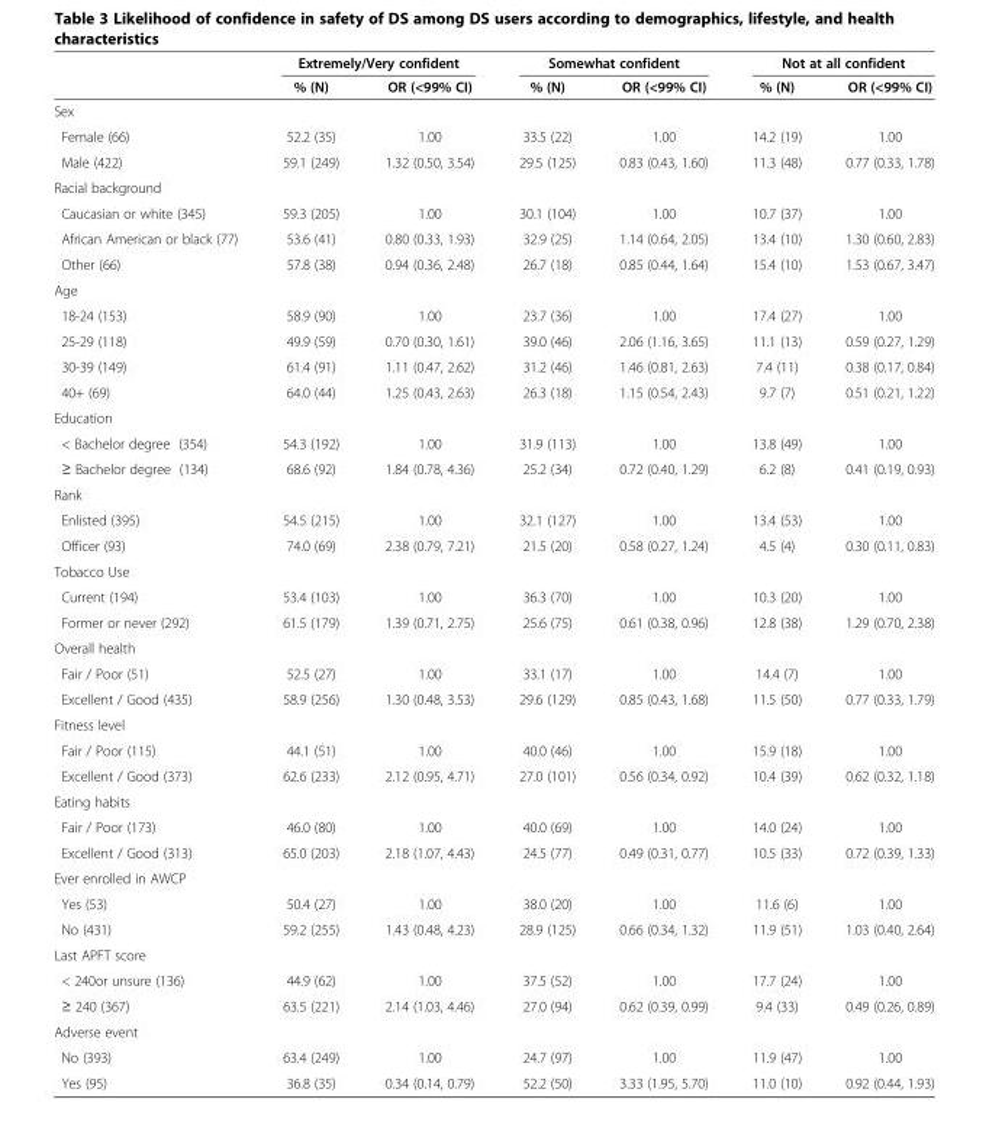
<table><thead><tr><td rowspan="2"></td><td colspan="2">Extremely/Very confident</td><td colspan="2">Somewhat confident</td><td colspan="2">Not at all confident</td></tr><tr><td>% (N)</td><td>OR (&lt;99% CI)</td><td>% (N)</td><td>OR (&lt;99% CI)</td><td>% (N)</td><td>OR (&lt;99% CI)</td></tr></thead><tbody><tr><td colspan="7">Sex</td></tr><tr><td>Female (66)</td><td>52.2 (35)</td><td>1.00</td><td>33.5 (22)</td><td>1.00</td><td>14.2 (19)</td><td>1.00</td></tr><tr><td>Male (422)</td><td>59.1 (249)</td><td>1.32 (0.50, 3.54)</td><td>29.5 (125)</td><td>0.83 (0.43, 1.60)</td><td>11.3 (48)</td><td>0.77 (0.33, 1.78)</td></tr><tr><td colspan="7">Racial background</td></tr><tr><td>Caucasian or white (345)</td><td>59.3 (205)</td><td>1.00</td><td>30.1 (104)</td><td>1.00</td><td>10.7 (37)</td><td>1.00</td></tr><tr><td>African American or black (77)</td><td>53.6 (41)</td><td>0.80 (0.33, 1.93)</td><td>32.9 (25)</td><td>1.14 (0.64, 2.05)</td><td>13.4 (10)</td><td>1.30 (0.60, 2.83)</td></tr><tr><td>Other (66)</td><td>57.8 (38)</td><td>0.94 (0.36, 2.48)</td><td>26.7 (18)</td><td>0.85 (0.44, 1.64)</td><td>15.4 (10)</td><td>1.53 (0.67, 3.47)</td></tr><tr><td colspan="7">Age</td></tr><tr><td>18-24 (153)</td><td>58.9 (90)</td><td>1.00</td><td>23.7 (36)</td><td>1.00</td><td>17.4 (27)</td><td>1.00</td></tr><tr><td>25-29 (118)</td><td>49.9 (59)</td><td>0.70 (0.30, 1.61)</td><td>39.0 (46)</td><td>2.06 (1.16, 3.65)</td><td>11.1 (13)</td><td>0.59 (0.27, 1.29)</td></tr><tr><td>30-39 (149)</td><td>61.4 (91)</td><td>1.11 (0.47, 2.62)</td><td>31.2 (46)</td><td>1.46 (0.81, 2.63)</td><td>7.4 (11)</td><td>0.38 (0.17, 0.84)</td></tr><tr><td>40+ (69)</td><td>64.0 (44)</td><td>1.25 (0.43, 2.63)</td><td>26.3 (18)</td><td>1.15 (0.54, 2.43)</td><td>9.7 (7)</td><td>0.51 (0.21, 1.22)</td></tr><tr><td colspan="7">Education</td></tr><tr><td>&lt; Bachelor degree (354)</td><td>54.3 (192)</td><td>1.00</td><td>31.9 (113)</td><td>1.00</td><td>13.8 (49)</td><td>1.00</td></tr><tr><td>≥ Bachelor degree (134)</td><td>68.6 (92)</td><td>1.84 (0.78, 4.36)</td><td>25.2 (34)</td><td>0.72 (0.40, 1.29)</td><td>6.2 (8)</td><td>0.41 (0.19, 0.93)</td></tr><tr><td colspan="7">Rank</td></tr><tr><td>Enlisted (395)</td><td>54.5 (215)</td><td>1.00</td><td>32.1 (127)</td><td>1.00</td><td>13.4 (53)</td><td>1.00</td></tr><tr><td>Officer (93)</td><td>74.0 (69)</td><td>2.38 (0.79, 7.21)</td><td>21.5 (20)</td><td>0.58 (0.27, 1.24)</td><td>4.5 (4)</td><td>0.30 (0.11, 0.83)</td></tr><tr><td colspan="7">Tobacco Use</td></tr><tr><td>Current (194)</td><td>53.4 (103)</td><td>1.00</td><td>36.3 (70)</td><td>1.00</td><td>10.3 (20)</td><td>1.00</td></tr><tr><td>Former or never (292)</td><td>61.5 (179)</td><td>1.39 (0.71, 2.75)</td><td>25.6 (75)</td><td>0.61 (0.38, 0.96)</td><td>12.8 (38)</td><td>1.29 (0.70, 2.38)</td></tr><tr><td colspan="7">Overall health</td></tr><tr><td>Fair / Poor (51)</td><td>52.5 (27)</td><td>1.00</td><td>33.1 (17)</td><td>1.00</td><td>14.4 (7)</td><td>1.00</td></tr><tr><td>Excellent / Good (435)</td><td>58.9 (256)</td><td>1.30 (0.48, 3.53)</td><td>29.6 (129)</td><td>0.85 (0.43, 1.68)</td><td>11.5 (50)</td><td>0.77 (0.33, 1.79)</td></tr><tr><td colspan="7">Fitness level</td></tr><tr><td>Fair / Poor (115)</td><td>44.1 (51)</td><td>1.00</td><td>40.0 (46)</td><td>1.00</td><td>15.9 (18)</td><td>1.00</td></tr><tr><td>Excellent / Good (373)</td><td>62.6 (233)</td><td>2.12 (0.95, 4.71)</td><td>27.0 (101)</td><td>0.56 (0.34, 0.92)</td><td>10.4 (39)</td><td>0.62 (0.32, 1.18)</td></tr><tr><td colspan="7">Eating habits</td></tr><tr><td>Fair / Poor (173)</td><td>46.0 (80)</td><td>1.00</td><td>40.0 (69)</td><td>1.00</td><td>14.0 (24)</td><td>1.00</td></tr><tr><td>Excellent / Good (313)</td><td>65.0 (203)</td><td>2.18 (1.07, 4.43)</td><td>24.5 (77)</td><td>0.49 (0.31, 0.77)</td><td>10.5 (33)</td><td>0.72 (0.39, 1.33)</td></tr><tr><td colspan="7">Ever enrolled in AWCP</td></tr><tr><td>Yes (53)</td><td>50.4 (27)</td><td>1.00</td><td>38.0 (20)</td><td>1.00</td><td>11.6 (6)</td><td>1.00</td></tr><tr><td>No (431)</td><td>59.2 (255)</td><td>1.43 (0.48, 4.23)</td><td>28.9 (125)</td><td>0.66 (0.34, 1.32)</td><td>11.9 (51)</td><td>1.03 (0.40, 2.64)</td></tr><tr><td colspan="7">Last APFT score</td></tr><tr><td>&lt; 240or unsure (136)</td><td>44.9 (62)</td><td>1.00</td><td>37.5 (52)</td><td>1.00</td><td>17.7 (24)</td><td>1.00</td></tr><tr><td>≥ 240 (367)</td><td>63.5 (221)</td><td>2.14 (1.03, 4.46)</td><td>27.0 (94)</td><td>0.62 (0.39, 0.99)</td><td>9.4 (33)</td><td>0.49 (0.26, 0.89)</td></tr><tr><td colspan="7">Adverse event</td></tr><tr><td>No (393)</td><td>63.4 (249)</td><td>1.00</td><td>24.7 (97)</td><td>1.00</td><td>11.9 (47)</td><td>1.00</td></tr><tr><td>Yes (95)</td><td>36.8 (35)</td><td>0.34 (0.14, 0.79)</td><td>52.2 (50)</td><td>3.33 (1.95, 5.70)</td><td>11.0 (10)</td><td>0.92 (0.44, 1.93)</td></tr></tbody></table>